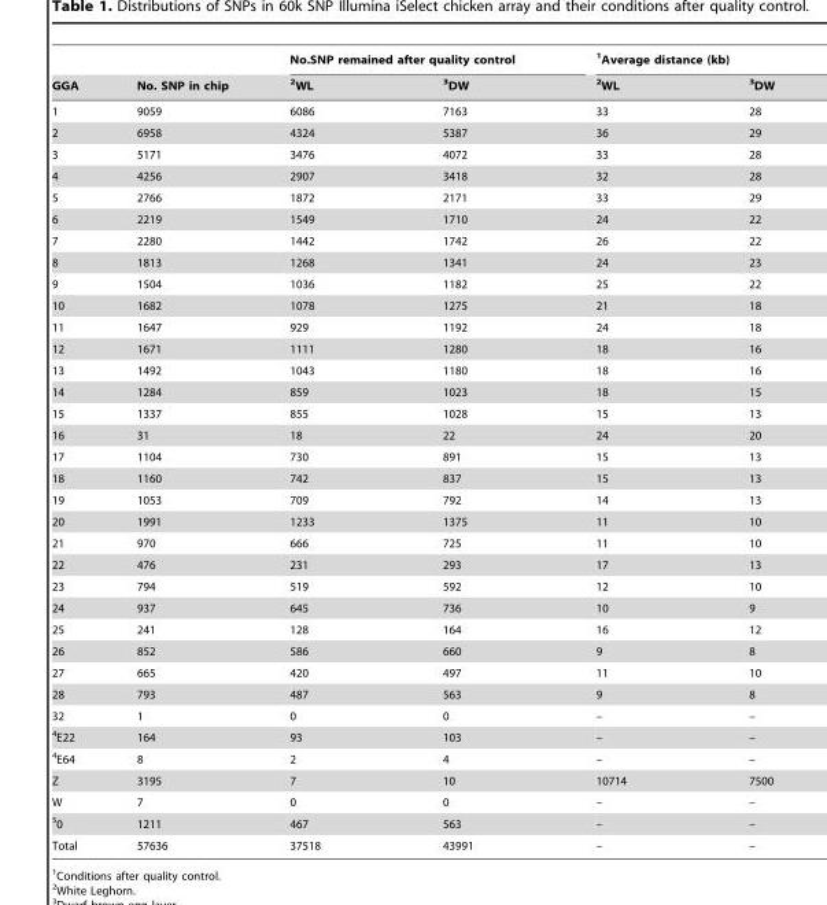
<table><thead><tr><td rowspan="2">GGA</td><td rowspan="2">No. SNP in chip</td><td colspan="2">No.SNP remained after quality control</td><td colspan="2">1Average distance (kb)</td></tr><tr><td>2WL</td><td>3DW</td><td>2WL</td><td>3DW</td></tr></thead><tbody><tr><td>1</td><td>9059</td><td>6086</td><td>7163</td><td>33</td><td>28</td></tr><tr><td>2</td><td>6958</td><td>4324</td><td>5387</td><td>36</td><td>29</td></tr><tr><td>3</td><td>5171</td><td>3476</td><td>4072</td><td>33</td><td>28</td></tr><tr><td>4</td><td>4256</td><td>2907</td><td>3418</td><td>32</td><td>28</td></tr><tr><td>5</td><td>2766</td><td>1872</td><td>2171</td><td>33</td><td>29</td></tr><tr><td>6</td><td>2219</td><td>1549</td><td>1710</td><td>24</td><td>22</td></tr><tr><td>7</td><td>2280</td><td>1442</td><td>1742</td><td>26</td><td>22</td></tr><tr><td>8</td><td>1813</td><td>1268</td><td>1341</td><td>24</td><td>23</td></tr><tr><td>9</td><td>1504</td><td>1036</td><td>1182</td><td>25</td><td>22</td></tr><tr><td>10</td><td>1682</td><td>1078</td><td>1275</td><td>21</td><td>18</td></tr><tr><td>11</td><td>1647</td><td>929</td><td>1192</td><td>24</td><td>18</td></tr><tr><td>12</td><td>1671</td><td>1111</td><td>1280</td><td>18</td><td>16</td></tr><tr><td>13</td><td>1492</td><td>1043</td><td>1180</td><td>18</td><td>16</td></tr><tr><td>14</td><td>1284</td><td>859</td><td>1023</td><td>18</td><td>15</td></tr><tr><td>15</td><td>1337</td><td>855</td><td>1028</td><td>15</td><td>13</td></tr><tr><td>16</td><td>31</td><td>18</td><td>22</td><td>24</td><td>20</td></tr><tr><td>17</td><td>1104</td><td>730</td><td>891</td><td>15</td><td>13</td></tr><tr><td>18</td><td>1160</td><td>742</td><td>837</td><td>15</td><td>13</td></tr><tr><td>19</td><td>1053</td><td>709</td><td>792</td><td>14</td><td>13</td></tr><tr><td>20</td><td>1991</td><td>1233</td><td>1375</td><td>11</td><td>10</td></tr><tr><td>21</td><td>970</td><td>666</td><td>725</td><td>11</td><td>10</td></tr><tr><td>22</td><td>476</td><td>231</td><td>293</td><td>17</td><td>13</td></tr><tr><td>23</td><td>794</td><td>519</td><td>592</td><td>12</td><td>10</td></tr><tr><td>24</td><td>937</td><td>645</td><td>736</td><td>10</td><td>9</td></tr><tr><td>25</td><td>241</td><td>128</td><td>164</td><td>16</td><td>12</td></tr><tr><td>26</td><td>852</td><td>586</td><td>660</td><td>9</td><td>8</td></tr><tr><td>27</td><td>665</td><td>420</td><td>497</td><td>11</td><td>10</td></tr><tr><td>28</td><td>793</td><td>487</td><td>563</td><td>9</td><td>8</td></tr><tr><td>32</td><td>1</td><td>0</td><td>0</td><td>–</td><td>–</td></tr><tr><td>4E22</td><td>164</td><td>93</td><td>103</td><td>–</td><td>–</td></tr><tr><td>4E64</td><td>8</td><td>2</td><td>4</td><td>–</td><td>–</td></tr><tr><td>Z</td><td>3195</td><td>7</td><td>10</td><td>10714</td><td>7500</td></tr><tr><td>W</td><td>7</td><td>0</td><td>0</td><td>–</td><td>–</td></tr><tr><td>50</td><td>1211</td><td>467</td><td>563</td><td>–</td><td>–</td></tr><tr><td>Total</td><td>57636</td><td>37518</td><td>43991</td><td>–</td><td>–</td></tr></tbody></table>